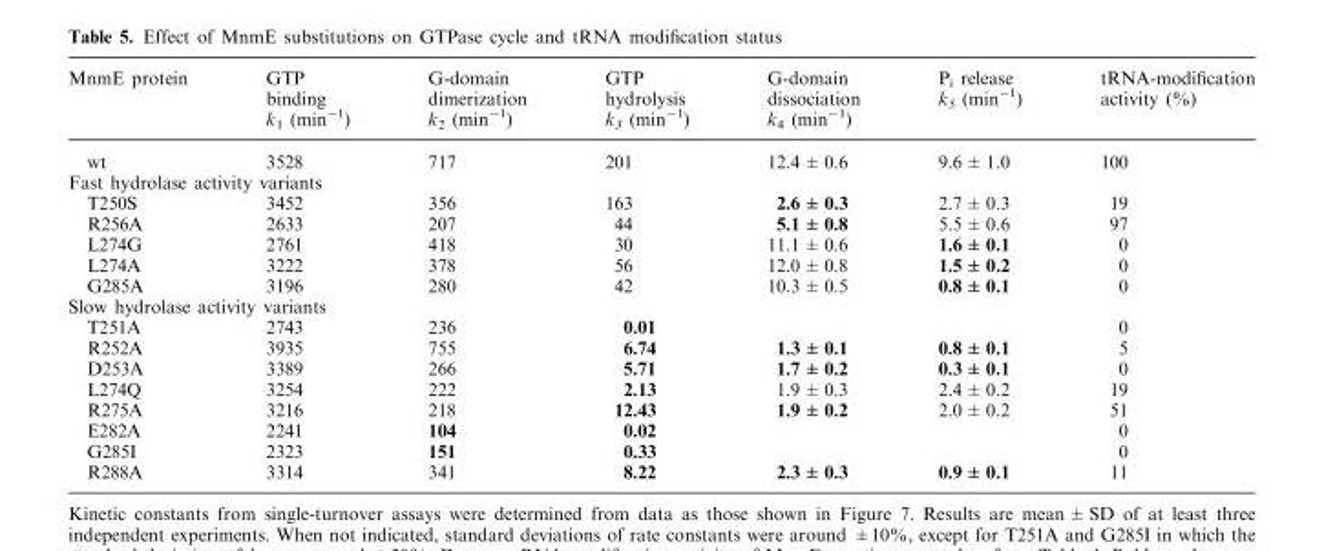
<table><thead><tr><td>MnmE protein</td><td>GTP binding k<sub>1</sub> (min<sup>−1</sup>)</td><td>G-domain dimerization k<sub>2</sub> (min<sup>−1</sup>)</td><td>GTP hydrolysis k<sub>3</sub> (min<sup>−1</sup>)</td><td>G-domain dissociation k<sub>4</sub> (min<sup>−1</sup>)</td><td>P<sub>i</sub> release k<sub>5</sub> (min<sup>−1</sup>)</td><td>tRNA-modification activity (%)</td></tr></thead><tbody><tr><td>wt</td><td>3528</td><td>717</td><td>201</td><td>12.4 ± 0.6</td><td>9.6 ± 1.0</td><td>100</td></tr><tr><td colspan="7">Fast hydrolase activity variants</td></tr><tr><td>T250S</td><td>3452</td><td>356</td><td>163</td><td>2.6 ± 0.3</td><td>2.7 ± 0.3</td><td>19</td></tr><tr><td>R256A</td><td>2633</td><td>207</td><td>44</td><td>5.1 ± 0.8</td><td>5.5 ± 0.6</td><td>97</td></tr><tr><td>L274G</td><td>2761</td><td>418</td><td>30</td><td>11.1 ± 0.6</td><td>1.6 ± 0.1</td><td>0</td></tr><tr><td>L274A</td><td>3222</td><td>378</td><td>56</td><td>12.0 ± 0.8</td><td>1.5 ± 0.2</td><td>0</td></tr><tr><td>G285A</td><td>3196</td><td>280</td><td>42</td><td>10.3 ± 0.5</td><td>0.8 ± 0.1</td><td>0</td></tr><tr><td colspan="7">Slow hydrolase activity variants</td></tr><tr><td>T251A</td><td>2743</td><td>236</td><td>0.01</td><td></td><td></td><td>0</td></tr><tr><td>R252A</td><td>3935</td><td>755</td><td>6.74</td><td>1.3 ± 0.1</td><td>0.8 ± 0.1</td><td>5</td></tr><tr><td>D253A</td><td>3389</td><td>266</td><td>5.71</td><td>1.7 ± 0.2</td><td>0.3 ± 0.1</td><td>0</td></tr><tr><td>L274Q</td><td>3254</td><td>222</td><td>2.13</td><td>1.9 ± 0.3</td><td>2.4 ± 0.2</td><td>19</td></tr><tr><td>R275A</td><td>3216</td><td>218</td><td>12.43</td><td>1.9 ± 0.2</td><td>2.0 ± 0.2</td><td>51</td></tr><tr><td>E282A</td><td>2241</td><td>104</td><td>0.02</td><td></td><td></td><td>0</td></tr><tr><td>G285I</td><td>2323</td><td>151</td><td>0.33</td><td></td><td></td><td>0</td></tr><tr><td>R288A</td><td>3314</td><td>341</td><td>8.22</td><td>2.3 ± 0.3</td><td>0.9 ± 0.1</td><td>11</td></tr></tbody></table>